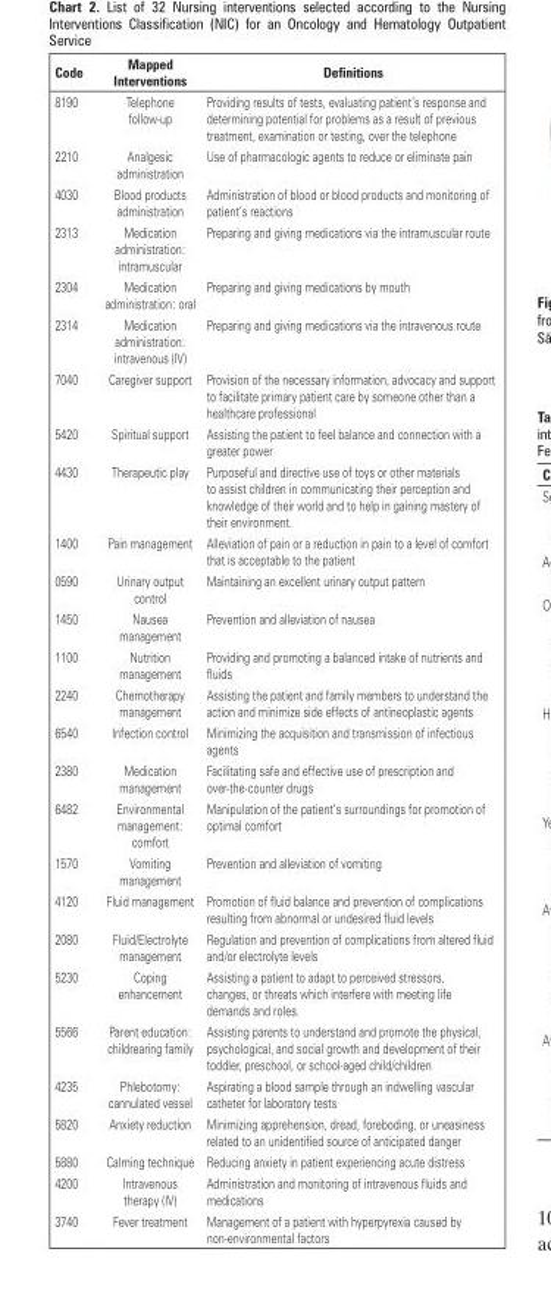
<table><thead><tr><td>Code</td><td>Mapped Interventions</td><td>Definitions</td></tr></thead><tbody><tr><td>8190</td><td>Telephone follow-up</td><td>Providing results of tests, evaluating patient’s response and determining potential for problems as a result of previous treatment, examination or testing, over the telephone</td></tr><tr><td>2210</td><td>Analgesic administration</td><td>Use of pharmacologic agents to reduce or eliminate pain</td></tr><tr><td>4030</td><td>Blood products administration</td><td>Administration of blood or blood products and monitoring of patient’s reactions</td></tr><tr><td>2313</td><td>Medication administration: intramuscular</td><td>Preparing and giving medications via the intramuscular route</td></tr><tr><td>2304</td><td>Medication administration: oral</td><td>Preparing and giving medications by mouth</td></tr><tr><td>2314</td><td>Medication administration: intravenous (IV)</td><td>Preparing and giving medications via the intravenous route</td></tr><tr><td>7040</td><td>Caregiver support</td><td>Provision of the necessary information, advocacy and support to facilitate primary patient care by someone other than a healthcare professional</td></tr><tr><td>5420</td><td>Spiritual support</td><td>Assisting the patient to feel balance and connection with a greater power</td></tr><tr><td>4430</td><td>Therapeutic play</td><td>Purposeful and directive use of toys or other materials to assist children in communicating their perception and knowledge of their world and to help in gaining mastery of their environment.</td></tr><tr><td>1400</td><td>Pain management</td><td>Alleviation of pain or a reduction in pain to a level of comfort that is acceptable to the patient</td></tr><tr><td>0590</td><td>Urinary output control</td><td>Maintaining an excellent urinary output pattern</td></tr><tr><td>1450</td><td>Nausea management</td><td>Prevention and alleviation of nausea</td></tr><tr><td>1100</td><td>Nutrition management</td><td>Providing and promoting a balanced intake of nutrients and fluids</td></tr><tr><td>2240</td><td>Chemotherapy management</td><td>Assisting the patient and family members to understand the action and minimize side effects of antineoplastic agents</td></tr><tr><td>6540</td><td>Infection control</td><td>Minimizing the acquisition and transmission of infectious agents</td></tr><tr><td>2380</td><td>Medication management</td><td>Facilitating safe and effective use of prescription and over-the-counter drugs</td></tr><tr><td>6482</td><td>Environmental management: comfort</td><td>Manipulation of the patient’s surroundings for promotion of optimal comfort</td></tr><tr><td>1570</td><td>Vomiting management</td><td>Prevention and alleviation of vomiting</td></tr><tr><td>4120</td><td>Fluid management</td><td>Promotion of fluid balance and prevention of complications resulting from abnormal or undesired fluid levels</td></tr><tr><td>2080</td><td>Fluid/Electrolyte management</td><td>Regulation and prevention of complications from altered fluid and/or electrolyte levels</td></tr><tr><td>5230</td><td>Coping enhancement</td><td>Assisting a patient to adapt to perceived stressors, changes, or threats which interfere with meeting life demands and roles.</td></tr><tr><td>5566</td><td>Parent education: childrearing family</td><td>Assisting parents to understand and promote the physical, psychological, and social growth and development of their toddler, preschool, or school-aged child/children</td></tr><tr><td>4235</td><td>Phlebotomy: cannulated vessel</td><td>Aspirating a blood sample through an indwelling vascular catheter for laboratory tests</td></tr><tr><td>5820</td><td>Anxiety reduction</td><td>Minimizing apprehension, dread, foreboding, or uneasiness related to an unidentified source of anticipated danger</td></tr><tr><td>5880</td><td>Calming technique</td><td>Reducing anxiety in patient experiencing acute distress</td></tr><tr><td>4200</td><td>Intravenous therapy (IV)</td><td>Administration and monitoring of intravenous fluids and medications</td></tr><tr><td>3740</td><td>Fever treatment</td><td>Management of a patient with hyperpyrexia caused by non-environmental factors</td></tr></tbody></table>